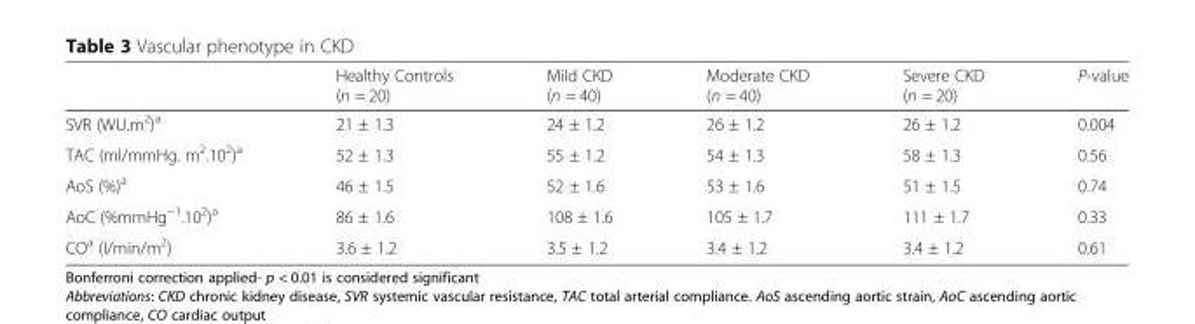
<table><thead><tr><td></td><td>Healthy Controls (n = 20)</td><td>Mild CKD (n = 40)</td><td>Moderate CKD (n = 40)</td><td>Severe CKD (n = 20)</td><td>P-value</td></tr></thead><tbody><tr><td>SVR (WU.m<sup>2</sup>)<sup>a</sup></td><td>21 ± 1.3</td><td>24 ± 1.2</td><td>26 ± 1.2</td><td>26 ± 1.2</td><td>0.004</td></tr><tr><td>TAC (ml/mmHg. m<sup>2</sup>.10<sup>2</sup>)<sup>a</sup></td><td>52 ± 1.3</td><td>55 ± 1.2</td><td>54 ± 1.3</td><td>58 ± 1.3</td><td>0.56</td></tr><tr><td>AoS (%)<sup>a</sup></td><td>46 ± 1.5</td><td>52 ± 1.6</td><td>53 ± 1.6</td><td>51 ± 1.5</td><td>0.74</td></tr><tr><td>AoC (%mmHg<sup>−1</sup>.10<sup>2</sup>)<sup>a</sup></td><td>86 ± 1.6</td><td>108 ± 1.6</td><td>105 ± 1.7</td><td>111 ± 1.7</td><td>0.33</td></tr><tr><td>CO<sup>a</sup> (l/min/m<sup>2</sup>)</td><td>3.6 ± 1.2</td><td>3.5 ± 1.2</td><td>3.4 ± 1.2</td><td>3.4 ± 1.2</td><td>0.61</td></tr></tbody></table>